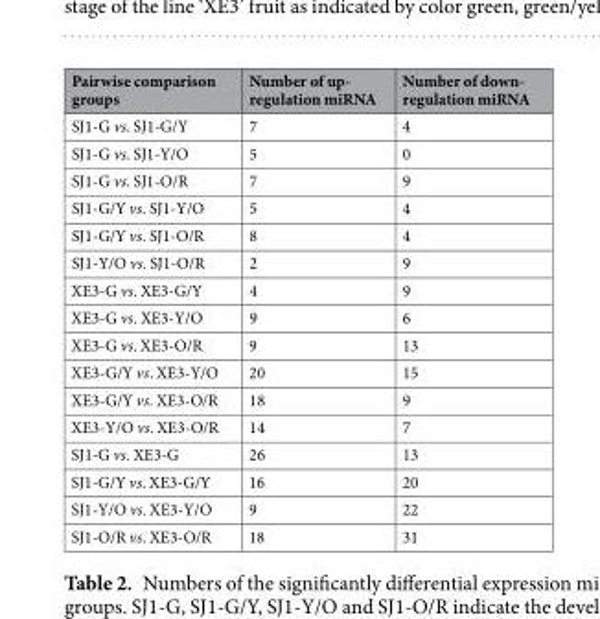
<table><thead><tr><td>Pairwise comparison groups</td><td>Number of up- regulation miRNA</td><td>Number of down- regulation miRNA</td></tr></thead><tbody><tr><td>SJ1-G vs. SJ1-G/Y</td><td>7</td><td>4</td></tr><tr><td>SJ1-G vs. SJ1-Y/O</td><td>5</td><td>0</td></tr><tr><td>SJ1-G vs. SJ1-O/R</td><td>7</td><td>9</td></tr><tr><td>SJ1-G/Y vs. SJ1-Y/O</td><td>5</td><td>4</td></tr><tr><td>SJ1-G/Y vs. SJ1-O/R</td><td>8</td><td>4</td></tr><tr><td>SJ1-Y/O vs. SJ1-O/R</td><td>2</td><td>9</td></tr><tr><td>XE3-G vs. XE3-G/Y</td><td>4</td><td>9</td></tr><tr><td>XE3-G vs. XE3-Y/O</td><td>9</td><td>6</td></tr><tr><td>XE3-G vs. XE3-O/R</td><td>9</td><td>13</td></tr><tr><td>XE3-G/Y vs. XE3-Y/O</td><td>20</td><td>15</td></tr><tr><td>XE3-G/Y vs. XE3-O/R</td><td>18</td><td>9</td></tr><tr><td>XE3-Y/O vs. XE3-O/R</td><td>14</td><td>7</td></tr><tr><td>SJ1-G vs. XE3-G</td><td>26</td><td>13</td></tr><tr><td>SJ1-G/Y vs. XE3-G/Y</td><td>16</td><td>20</td></tr><tr><td>SJ1-Y/O vs. XE3-Y/O</td><td>9</td><td>22</td></tr><tr><td>SJ1-O/R vs. XE3-O/R</td><td>18</td><td>31</td></tr></tbody></table>